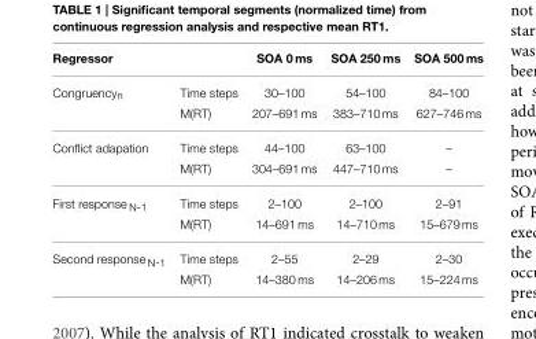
<table><thead><tr><td>Regressor</td><td></td><td>SOA 0 ms</td><td>SOA 250 ms</td><td>SOA 500 ms</td></tr></thead><tbody><tr><td rowspan="2">Congruency<sub>n</sub></td><td>Time steps</td><td>30–100</td><td>54–100</td><td>84–100</td></tr><tr><td>M(RT)</td><td>207–691 ms</td><td>383–710 ms</td><td>627–746 ms</td></tr><tr><td rowspan="2">Conflict adapation</td><td>Time steps</td><td>44–100</td><td>63–100</td><td>–</td></tr><tr><td>M(RT)</td><td>304–691 ms</td><td>447–710 ms</td><td>–</td></tr><tr><td rowspan="2">First response <sub>N-1</sub></td><td>Time steps</td><td>2–100</td><td>2–100</td><td>2–91</td></tr><tr><td>M(RT)</td><td>14–691 ms</td><td>14–710 ms</td><td>15–679 ms</td></tr><tr><td rowspan="2">Second response <sub>N-1</sub></td><td>Time steps</td><td>2–55</td><td>2–29</td><td>2–30</td></tr><tr><td>M(RT)</td><td>14–380 ms</td><td>14–206 ms</td><td>15–224 ms</td></tr></tbody></table>